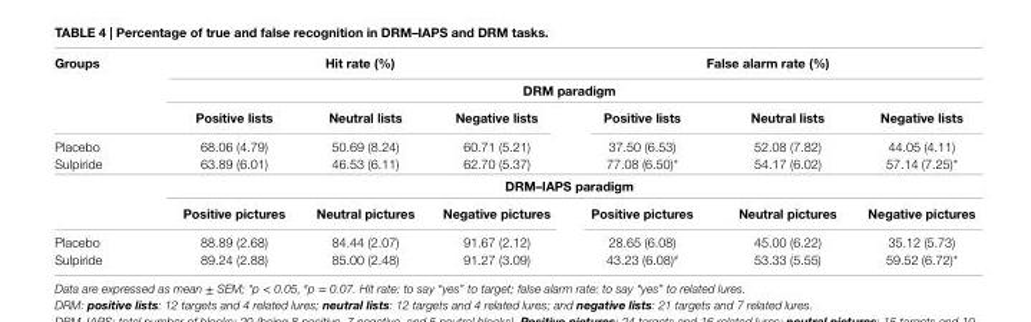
<table><tbody><tr><td rowspan="3">groups</td><td colspan="3">hit rate (%)</td><td colspan="3">False alarm rate (%)</td></tr><tr><td colspan="6">DrM paradigm</td></tr><tr><td>Positive lists</td><td>neutral lists</td><td>negative lists</td><td>Positive lists</td><td>neutral lists</td><td>negative lists</td></tr><tr><td>Placebo</td><td>68.06 (4.79)</td><td>50.69 (8.24)</td><td>60.71 (5.21)</td><td>37.50 (6.53)</td><td>52.08 (7.82)</td><td>44.05 (4.11)</td></tr><tr><td rowspan="3">Sulpiride</td><td>63.89 (6.01)</td><td>46.53 (6.11)</td><td>62.70 (5.37)</td><td>77.08 (6.50)*</td><td>54.17 (6.02)</td><td>57.14 (7.25)*</td></tr><tr><td colspan="6">DrM–iaPs paradigm</td></tr><tr><td>Positive pictures</td><td>neutral pictures</td><td>negative pictures</td><td>Positive pictures</td><td>neutral pictures</td><td>negative pictures</td></tr><tr><td>Placebo</td><td>88.89 (2.68)</td><td>84.44 (2.07)</td><td>91.67 (2.12)</td><td>28.65 (6.08)</td><td>45.00 (6.22)</td><td>35.12 (5.73)</td></tr><tr><td>Sulpiride</td><td>89.24 (2.88)</td><td>85.00 (2.48)</td><td>91.27 (3.09)</td><td>43.23 (6.08)<sup>#</sup></td><td>53.33 (5.55)</td><td>59.52 (6.72)*</td></tr></tbody></table>